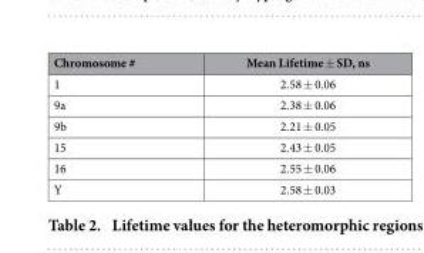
<table><thead><tr><td>Chromosome #</td><td>Mean Lifetime ± SD, ns</td></tr></thead><tbody><tr><td>1</td><td>2.58 ± 0.06</td></tr><tr><td>9a</td><td>2.38 ± 0.06</td></tr><tr><td>9b</td><td>2.21 ± 0.05</td></tr><tr><td>15</td><td>2.43 ± 0.05</td></tr><tr><td>16</td><td>2.55 ± 0.06</td></tr><tr><td>Y</td><td>2.58 ± 0.03</td></tr></tbody></table>